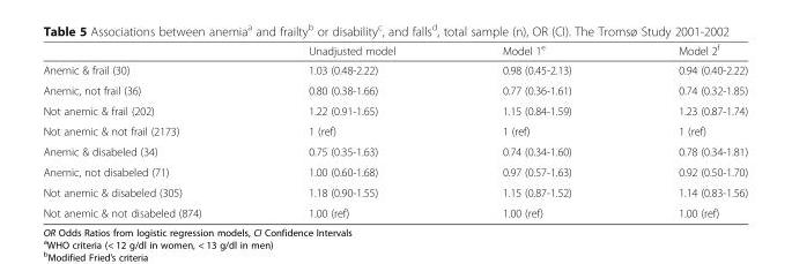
<table><thead><tr><td></td><td>Unadjusted model</td><td>Model 1<sup>e</sup></td><td>Model 2<sup>f</sup></td></tr></thead><tbody><tr><td>Anemic &amp; frail (30)</td><td>1.03 (0.48-2.22)</td><td>0.98 (0.45-2.13)</td><td>0.94 (0.40-2.22)</td></tr><tr><td>Anemic, not frail (36)</td><td>0.80 (0.38-1.66)</td><td>0.77 (0.36-1.61)</td><td>0.74 (0.32-1.85)</td></tr><tr><td>Not anemic &amp; frail (202)</td><td>1.22 (0.91-1.65)</td><td>1.15 (0.84-1.59)</td><td>1.23 (0.87-1.74)</td></tr><tr><td>Not anemic &amp; not frail (2173)</td><td>1 (ref)</td><td>1 (ref)</td><td>1 (ref)</td></tr><tr><td>Anemic &amp; disabeled (34)</td><td>0.75 (0.35-1.63)</td><td>0.74 (0.34-1.60)</td><td>0.78 (0.34-1.81)</td></tr><tr><td>Anemic, not disabeled (71)</td><td>1.00 (0.60-1.68)</td><td>0.97 (0.57-1.63)</td><td>0.92 (0.50-1.70)</td></tr><tr><td>Not anemic &amp; disabeled (305)</td><td>1.18 (0.90-1.55)</td><td>1.15 (0.87-1.52)</td><td>1.14 (0.83-1.56)</td></tr><tr><td>Not anemic &amp; not disabeled (874)</td><td>1.00 (ref)</td><td>1.00 (ref)</td><td>1.00 (ref)</td></tr></tbody></table>